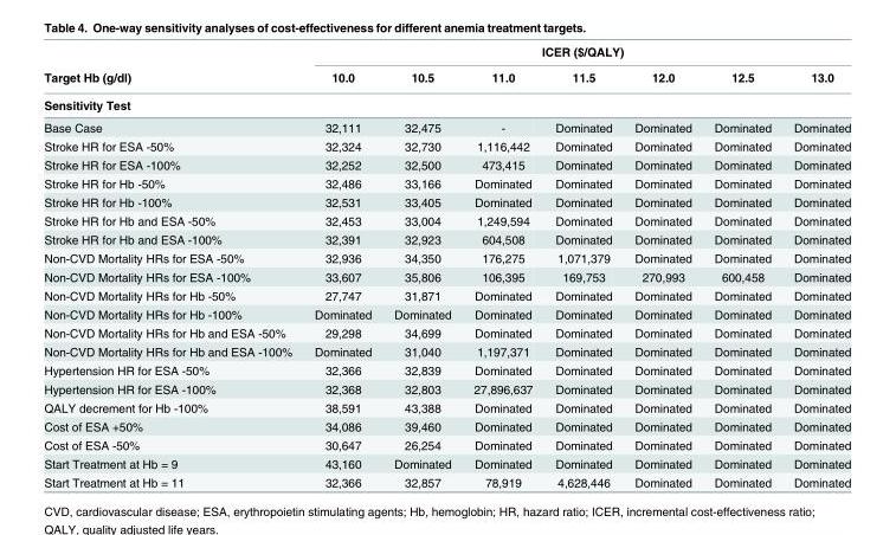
<table><thead><tr><td rowspan="3">Target Hb (g/dl) Sensitivity Test</td><td colspan="7">ICER ($/QALY)</td></tr><tr><td rowspan="2">10.0</td><td rowspan="2">10.5</td><td rowspan="2">11.0</td><td rowspan="2">11.5</td><td rowspan="2">12.0</td><td rowspan="2">12.5</td><td rowspan="2">13.0</td></tr><tr></tr></thead><tbody><tr><td>Base Case</td><td>32,111</td><td>32,475</td><td>-</td><td>Dominated</td><td>Dominated</td><td>Dominated</td><td>Dominated</td></tr><tr><td>Stroke HR for ESA -50%</td><td>32,324</td><td>32,730</td><td>1,116,442</td><td>Dominated</td><td>Dominated</td><td>Dominated</td><td>Dominated</td></tr><tr><td>Stroke HR for ESA -100%</td><td>32,252</td><td>32,500</td><td>473,415</td><td>Dominated</td><td>Dominated</td><td>Dominated</td><td>Dominated</td></tr><tr><td>Stroke HR for Hb -50%</td><td>32,486</td><td>33,166</td><td>Dominated</td><td>Dominated</td><td>Dominated</td><td>Dominated</td><td>Dominated</td></tr><tr><td>Stroke HR for Hb -100%</td><td>32,531</td><td>33,405</td><td>Dominated</td><td>Dominated</td><td>Dominated</td><td>Dominated</td><td>Dominated</td></tr><tr><td>Stroke HR for Hb and ESA -50%</td><td>32,453</td><td>33,004</td><td>1,249,594</td><td>Dominated</td><td>Dominated</td><td>Dominated</td><td>Dominated</td></tr><tr><td>Stroke HR for Hb and ESA -100%</td><td>32,391</td><td>32,923</td><td>604,508</td><td>Dominated</td><td>Dominated</td><td>Dominated</td><td>Dominated</td></tr><tr><td>Non-CVD Mortality HRs for ESA -50%</td><td>32,936</td><td>34,350</td><td>176,275</td><td>1,071,379</td><td>Dominated</td><td>Dominated</td><td>Dominated</td></tr><tr><td>Non-CVD Mortality HRs for ESA -100%</td><td>33,607</td><td>35,806</td><td>106,395</td><td>169,753</td><td>270,993</td><td>600,458</td><td>Dominated</td></tr><tr><td>Non-CVD Mortality HRs for Hb -50%</td><td>27,747</td><td>31,871</td><td>Dominated</td><td>Dominated</td><td>Dominated</td><td>Dominated</td><td>Dominated</td></tr><tr><td>Non-CVD Mortality HRs for Hb -100%</td><td>Dominated</td><td>Dominated</td><td>Dominated</td><td>Dominated</td><td>Dominated</td><td>Dominated</td><td>Dominated</td></tr><tr><td>Non-CVD Mortality HRs for Hb and ESA -50%</td><td>29,298</td><td>34,699</td><td>Dominated</td><td>Dominated</td><td>Dominated</td><td>Dominated</td><td>Dominated</td></tr><tr><td>Non-CVD Mortality HRs for Hb and ESA -100%</td><td>Dominated</td><td>31,040</td><td>1,197,371</td><td>Dominated</td><td>Dominated</td><td>Dominated</td><td>Dominated</td></tr><tr><td>Hypertension HR for ESA -50%</td><td>32,366</td><td>32,839</td><td>Dominated</td><td>Dominated</td><td>Dominated</td><td>Dominated</td><td>Dominated</td></tr><tr><td>Hypertension HR for ESA -100%</td><td>32,368</td><td>32,803</td><td>27,896,637</td><td>Dominated</td><td>Dominated</td><td>Dominated</td><td>Dominated</td></tr><tr><td>QALY decrement for Hb -100%</td><td>38,591</td><td>43,388</td><td>Dominated</td><td>Dominated</td><td>Dominated</td><td>Dominated</td><td>Dominated</td></tr><tr><td>Cost of ESA +50%</td><td>34,086</td><td>39,460</td><td>Dominated</td><td>Dominated</td><td>Dominated</td><td>Dominated</td><td>Dominated</td></tr><tr><td>Cost of ESA -50%</td><td>30,647</td><td>26,254</td><td>Dominated</td><td>Dominated</td><td>Dominated</td><td>Dominated</td><td>Dominated</td></tr><tr><td>Start Treatment at Hb = 9</td><td>43,160</td><td>Dominated</td><td>Dominated</td><td>Dominated</td><td>Dominated</td><td>Dominated</td><td>Dominated</td></tr><tr><td>Start Treatment at Hb = 11</td><td>32,366</td><td>32,857</td><td>78,919</td><td>4,628,446</td><td>Dominated</td><td>Dominated</td><td>Dominated</td></tr></tbody></table>